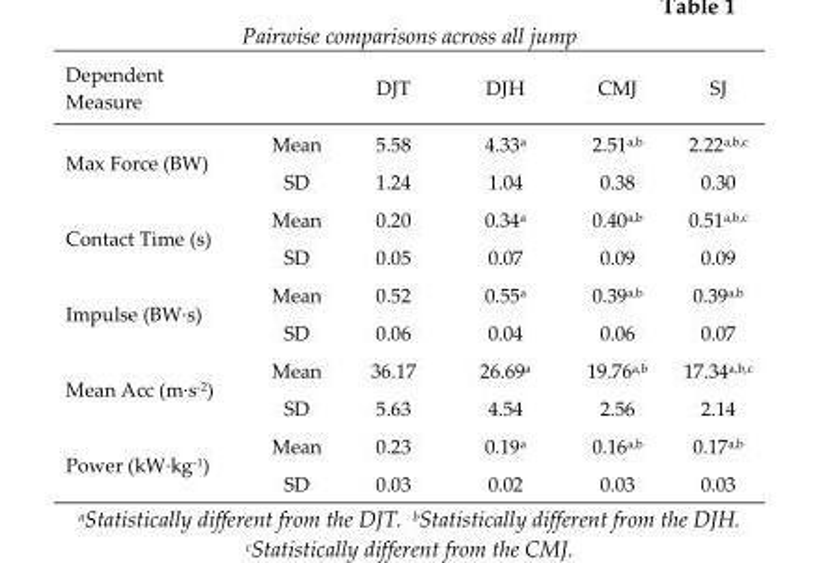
<table><thead><tr><td>Dependent Measure</td><td></td><td>DJT</td><td>DJH</td><td>CMJ</td><td>SJ</td></tr></thead><tbody><tr><td rowspan="2">Max Force (BW)</td><td>Mean</td><td>5.58</td><td>4.33<sup>a</sup></td><td>2.51<sup>a</sup>,<sup>b</sup></td><td>2.22<sup>a</sup>,<sup>b</sup>,<sup>c</sup></td></tr><tr><td>SD</td><td>1.24</td><td>1.04</td><td>0.38</td><td>0.30</td></tr><tr><td rowspan="2">Contact Time (s)</td><td>Mean</td><td>0.20</td><td>0.34<sup>a</sup></td><td>0.40<sup>a</sup>,<sup>b</sup></td><td>0.51<sup>a</sup>,<sup>b</sup>,<sup>c</sup></td></tr><tr><td>SD</td><td>0.05</td><td>0.07</td><td>0.09</td><td>0.09</td></tr><tr><td rowspan="2">Impulse (BW·s)</td><td>Mean</td><td>0.52</td><td>0.55<sup>a</sup></td><td>0.39<sup>a</sup>,<sup>b</sup></td><td>0.39<sup>a</sup>,<sup>b</sup></td></tr><tr><td>SD</td><td>0.06</td><td>0.04</td><td>0.06</td><td>0.07</td></tr><tr><td rowspan="2">Mean Acc (m·s<sup>-2</sup>)</td><td>Mean</td><td>36.17</td><td>26.69<sup>a</sup></td><td>19.76<sup>a</sup>,<sup>b</sup></td><td>17.34<sup>a</sup>,<sup>b</sup>,<sup>c</sup></td></tr><tr><td>SD</td><td>5.63</td><td>4.54</td><td>2.56</td><td>2.14</td></tr><tr><td rowspan="2">Power (kW·kg<sup>-1</sup>)</td><td>Mean</td><td>0.23</td><td>0.19<sup>a</sup></td><td>0.16<sup>a</sup>,<sup>b</sup></td><td>0.17<sup>a</sup>,<sup>b</sup></td></tr><tr><td>SD</td><td>0.03</td><td>0.02</td><td>0.03</td><td>0.03</td></tr></tbody></table>